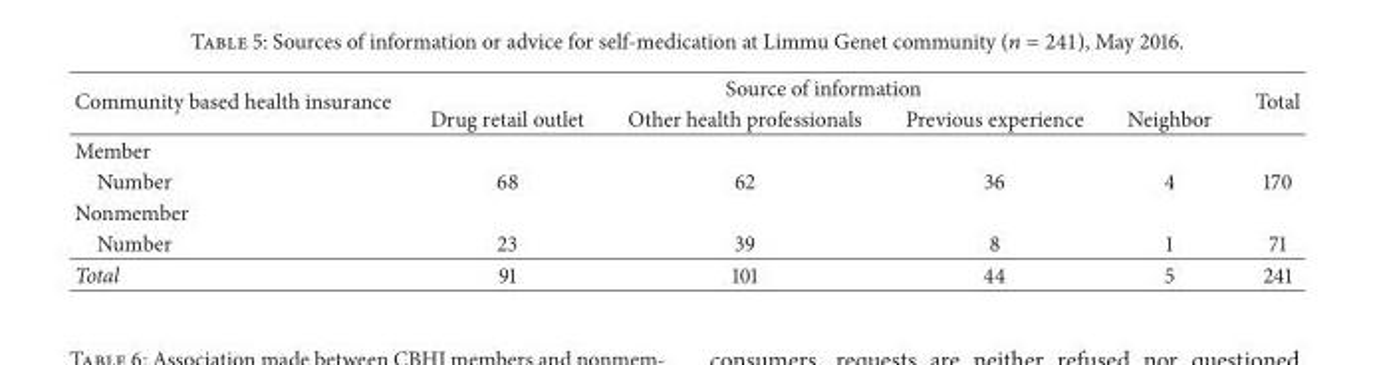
<table><thead><tr><td rowspan="2">Community based health insurance</td><td colspan="4">Source of information</td><td rowspan="2">Total</td></tr><tr><td>Drug retail outlet</td><td>Other health professionals</td><td>Previous experience</td><td>Neighbor</td></tr></thead><tbody><tr><td colspan="6">Member</td></tr><tr><td>Number</td><td>68</td><td>62</td><td>36</td><td>4</td><td>170</td></tr><tr><td colspan="6">Nonmember</td></tr><tr><td>Number</td><td>23</td><td>39</td><td>8</td><td>1</td><td>71</td></tr><tr><td>Total</td><td>91</td><td>101</td><td>44</td><td>5</td><td>241</td></tr></tbody></table>